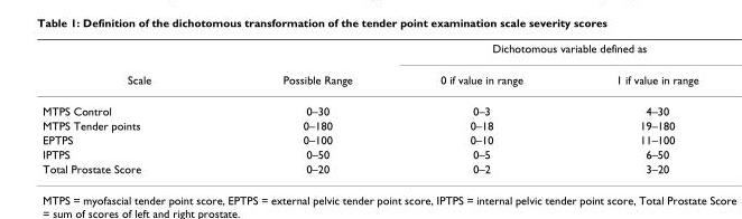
<table><thead><tr><td rowspan="2">Scale</td><td rowspan="2">Possible Range</td><td colspan="2">Dichotomous variable defined as</td></tr><tr><td>0 if value in range</td><td>1 if value in range</td></tr></thead><tbody><tr><td>MTPS Control</td><td>0–30</td><td>0–3</td><td>4–30</td></tr><tr><td>MTPS Tender points</td><td>0–180</td><td>0–18</td><td>19–180</td></tr><tr><td>EPTPS</td><td>0–100</td><td>0–10</td><td>11–100</td></tr><tr><td>IPTPS</td><td>0–50</td><td>0–5</td><td>6–50</td></tr><tr><td>Total Prostate Score</td><td>0–20</td><td>0–2</td><td>3–20</td></tr></tbody></table>